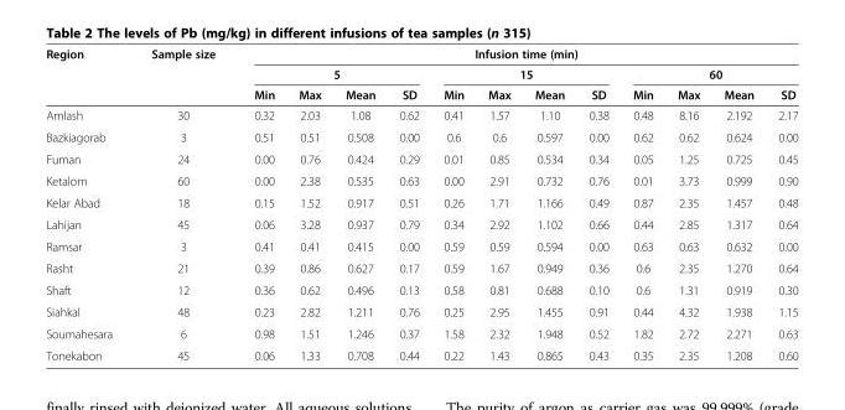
<table><thead><tr><td rowspan="3">Region</td><td rowspan="3">Sample size</td><td colspan="12">Infusion time (min)</td></tr><tr><td colspan="4">5</td><td colspan="4">15</td><td colspan="4">60</td></tr><tr><td>Min</td><td>Max</td><td>Mean</td><td>SD</td><td>Min</td><td>Max</td><td>Mean</td><td>SD</td><td>Min</td><td>Max</td><td>Mean</td><td>SD</td></tr></thead><tbody><tr><td>Amlash</td><td>30</td><td>0.32</td><td>2.03</td><td>1.08</td><td>0.62</td><td>0.41</td><td>1.57</td><td>1.10</td><td>0.38</td><td>0.48</td><td>8.16</td><td>2.192</td><td>2.17</td></tr><tr><td>Bazkiagorab</td><td>3</td><td>0.51</td><td>0.51</td><td>0.508</td><td>0.00</td><td>0.6</td><td>0.6</td><td>0.597</td><td>0.00</td><td>0.62</td><td>0.62</td><td>0.624</td><td>0.00</td></tr><tr><td>Fuman</td><td>24</td><td>0.00</td><td>0.76</td><td>0.424</td><td>0.29</td><td>0.01</td><td>0.85</td><td>0.534</td><td>0.34</td><td>0.05</td><td>1.25</td><td>0.725</td><td>0.45</td></tr><tr><td>Ketalom</td><td>60</td><td>0.00</td><td>2.38</td><td>0.535</td><td>0.63</td><td>0.00</td><td>2.91</td><td>0.732</td><td>0.76</td><td>0.01</td><td>3.73</td><td>0.999</td><td>0.90</td></tr><tr><td>Kelar Abad</td><td>18</td><td>0.15</td><td>1.52</td><td>0.917</td><td>0.51</td><td>0.26</td><td>1.71</td><td>1.166</td><td>0.49</td><td>0.87</td><td>2.35</td><td>1.457</td><td>0.48</td></tr><tr><td>Lahijan</td><td>45</td><td>0.06</td><td>3.28</td><td>0.937</td><td>0.79</td><td>0.34</td><td>2.92</td><td>1.102</td><td>0.66</td><td>0.44</td><td>2.85</td><td>1.317</td><td>0.64</td></tr><tr><td>Ramsar</td><td>3</td><td>0.41</td><td>0.41</td><td>0.415</td><td>0.00</td><td>0.59</td><td>0.59</td><td>0.594</td><td>0.00</td><td>0.63</td><td>0.63</td><td>0.632</td><td>0.00</td></tr><tr><td>Rasht</td><td>21</td><td>0.39</td><td>0.86</td><td>0.627</td><td>0.17</td><td>0.59</td><td>1.67</td><td>0.949</td><td>0.36</td><td>0.6</td><td>2.35</td><td>1.270</td><td>0.64</td></tr><tr><td>Shaft</td><td>12</td><td>0.36</td><td>0.62</td><td>0.496</td><td>0.13</td><td>0.58</td><td>0.81</td><td>0.688</td><td>0.10</td><td>0.6</td><td>1.31</td><td>0.919</td><td>0.30</td></tr><tr><td>Siahkal</td><td>48</td><td>0.23</td><td>2.82</td><td>1.211</td><td>0.76</td><td>0.25</td><td>2.95</td><td>1.455</td><td>0.91</td><td>0.44</td><td>4.32</td><td>1.938</td><td>1.15</td></tr><tr><td>Soumahesara</td><td>6</td><td>0.98</td><td>1.51</td><td>1.246</td><td>0.37</td><td>1.58</td><td>2.32</td><td>1.948</td><td>0.52</td><td>1.82</td><td>2.72</td><td>2.271</td><td>0.63</td></tr><tr><td>Tonekabon</td><td>45</td><td>0.06</td><td>1.33</td><td>0.708</td><td>0.44</td><td>0.22</td><td>1.43</td><td>0.865</td><td>0.43</td><td>0.35</td><td>2.35</td><td>1.208</td><td>0.60</td></tr></tbody></table>